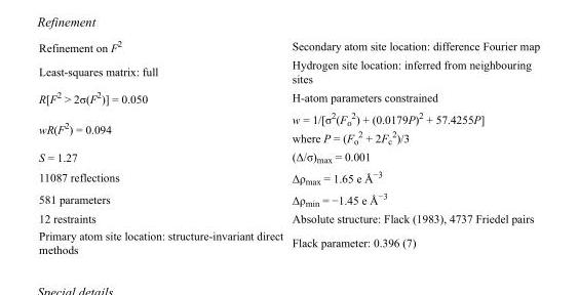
<table><tbody><tr><td>Refinement on F<sup>2</sup></td><td>Secondary atom site location: difference Fourier map</td></tr><tr><td>Least-squares matrix: full</td><td>Hydrogen site location: inferred from neighbouring sites</td></tr><tr><td>R[F<sup>2</sup> &gt; 2σ(F<sup>2</sup>)] = 0.050</td><td>H-atom parameters constrained</td></tr><tr><td>wR(F<sup>2</sup>) = 0.094</td><td>w = 1/[σ<sup>2</sup>(F<sub>o</sub> <sup>2</sup>) + (0.0179P)<sup>2</sup> + 57.4255P] where P = (F<sub>o</sub> <sup>2</sup> + 2F<sub>c</sub> <sup>2</sup>)/3</td></tr><tr><td>S = 1.27</td><td>(Δ/σ)<sub>max</sub> = 0.001</td></tr><tr><td>11087 reflections</td><td>Δρ<sub>max</sub> = 1.65 e Å<sup>−3</sup></td></tr><tr><td>581 parameters</td><td>Δρ<sub>min</sub> = −1.45 e Å<sup>−3</sup></td></tr><tr><td>12 restraints</td><td>Absolute structure: Flack (1983), 4737 Friedel pairs</td></tr><tr><td>Primary atom site location: structure-invariant direct methods</td><td>Flack parameter: 0.396 (7)</td></tr></tbody></table>